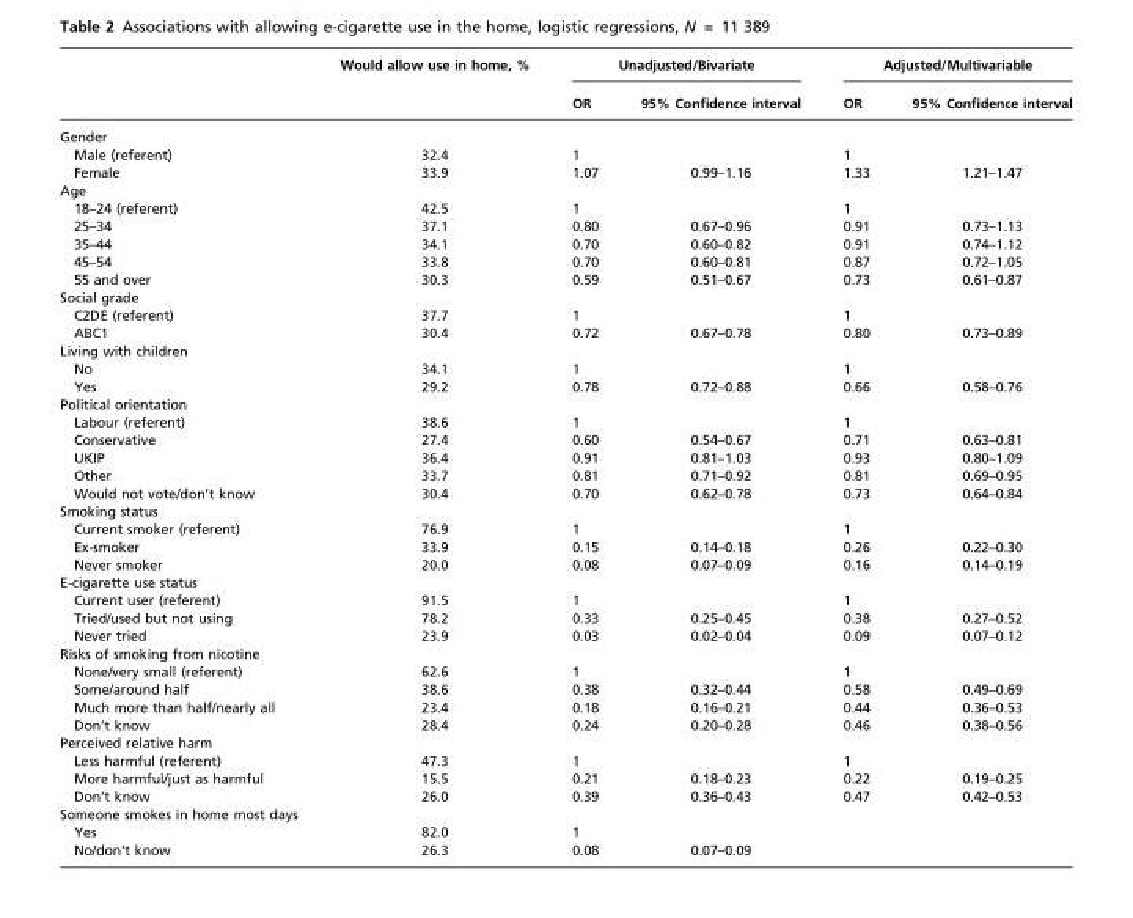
<table><thead><tr><td rowspan="2"></td><td rowspan="2">Would allow use in home, %</td><td colspan="2">Unadjusted/Bivariate</td><td colspan="2">Adjusted/Multivariable</td></tr><tr><td>OR</td><td>95% Confidence interval</td><td>OR</td><td>95% Confidence interval</td></tr></thead><tbody><tr><td colspan="6">Gender</td></tr><tr><td>Male (referent)</td><td>32.4</td><td>1</td><td></td><td>1</td><td></td></tr><tr><td>Female</td><td>33.9</td><td>1.07</td><td>0.99–1.16</td><td>1.33</td><td>1.21–1.47</td></tr><tr><td colspan="6">Age</td></tr><tr><td>18–24 (referent)</td><td>42.5</td><td>1</td><td></td><td>1</td><td></td></tr><tr><td>25–34</td><td>37.1</td><td>0.80</td><td>0.67–0.96</td><td>0.91</td><td>0.73–1.13</td></tr><tr><td>35–44</td><td>34.1</td><td>0.70</td><td>0.60–0.82</td><td>0.91</td><td>0.74–1.12</td></tr><tr><td>45–54</td><td>33.8</td><td>0.70</td><td>0.60–0.81</td><td>0.87</td><td>0.72–1.05</td></tr><tr><td>55 and over</td><td>30.3</td><td>0.59</td><td>0.51–0.67</td><td>0.73</td><td>0.61–0.87</td></tr><tr><td colspan="6">Social grade</td></tr><tr><td>C2DE (referent)</td><td>37.7</td><td>1</td><td></td><td>1</td><td></td></tr><tr><td>ABC1</td><td>30.4</td><td>0.72</td><td>0.67–0.78</td><td>0.80</td><td>0.73–0.89</td></tr><tr><td colspan="6">Living with children</td></tr><tr><td>No</td><td>34.1</td><td>1</td><td></td><td>1</td><td></td></tr><tr><td>Yes</td><td>29.2</td><td>0.78</td><td>0.72–0.88</td><td>0.66</td><td>0.58–0.76</td></tr><tr><td colspan="6">Political orientation</td></tr><tr><td>Labour (referent)</td><td>38.6</td><td>1</td><td></td><td>1</td><td></td></tr><tr><td>Conservative</td><td>27.4</td><td>0.60</td><td>0.54–0.67</td><td>0.71</td><td>0.63–0.81</td></tr><tr><td>UKIP</td><td>36.4</td><td>0.91</td><td>0.81–1.03</td><td>0.93</td><td>0.80–1.09</td></tr><tr><td>Other</td><td>33.7</td><td>0.81</td><td>0.71–0.92</td><td>0.81</td><td>0.69–0.95</td></tr><tr><td>Would not vote/don’t know</td><td>30.4</td><td>0.70</td><td>0.62–0.78</td><td>0.73</td><td>0.64–0.84</td></tr><tr><td colspan="6">Smoking status</td></tr><tr><td>Current smoker (referent)</td><td>76.9</td><td>1</td><td></td><td>1</td><td></td></tr><tr><td>Ex-smoker</td><td>33.9</td><td>0.15</td><td>0.14–0.18</td><td>0.26</td><td>0.22–0.30</td></tr><tr><td>Never smoker</td><td>20.0</td><td>0.08</td><td>0.07–0.09</td><td>0.16</td><td>0.14–0.19</td></tr><tr><td colspan="6">E-cigarette use status</td></tr><tr><td>Current user (referent)</td><td>91.5</td><td>1</td><td></td><td>1</td><td></td></tr><tr><td>Tried/used but not using</td><td>78.2</td><td>0.33</td><td>0.25–0.45</td><td>0.38</td><td>0.27–0.52</td></tr><tr><td>Never tried</td><td>23.9</td><td>0.03</td><td>0.02–0.04</td><td>0.09</td><td>0.07–0.12</td></tr><tr><td colspan="6">Risks of smoking from nicotine</td></tr><tr><td>None/very small (referent)</td><td>62.6</td><td>1</td><td></td><td>1</td><td></td></tr><tr><td>Some/around half</td><td>38.6</td><td>0.38</td><td>0.32–0.44</td><td>0.58</td><td>0.49–0.69</td></tr><tr><td>Much more than half/nearly all</td><td>23.4</td><td>0.18</td><td>0.16–0.21</td><td>0.44</td><td>0.36–0.53</td></tr><tr><td>Don’t know</td><td>28.4</td><td>0.24</td><td>0.20–0.28</td><td>0.46</td><td>0.38–0.56</td></tr><tr><td colspan="6">Perceived relative harm</td></tr><tr><td>Less harmful (referent)</td><td>47.3</td><td>1</td><td></td><td>1</td><td></td></tr><tr><td>More harmful/just as harmful</td><td>15.5</td><td>0.21</td><td>0.18–0.23</td><td>0.22</td><td>0.19–0.25</td></tr><tr><td>Don’t know</td><td>26.0</td><td>0.39</td><td>0.36–0.43</td><td>0.47</td><td>0.42–0.53</td></tr><tr><td colspan="6">Someone smokes in home most days</td></tr><tr><td>Yes</td><td>82.0</td><td>1</td><td></td><td></td><td></td></tr><tr><td>No/don’t know</td><td>26.3</td><td>0.08</td><td>0.07–0.09</td><td></td><td></td></tr></tbody></table>